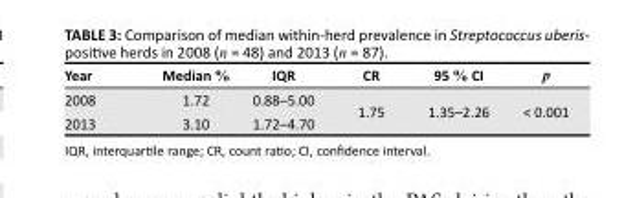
<table><thead><tr><td>Year</td><td>Median %</td><td>IQR</td><td>CR</td><td>95 % CI</td><td>p</td></tr></thead><tbody><tr><td>2008</td><td>1.72</td><td>0.88–5.00</td><td rowspan="2">1.75</td><td rowspan="2">1.35–2.26</td><td rowspan="2">&lt; 0.001</td></tr><tr><td>2013</td><td>3.10</td><td>1.72–4.70</td></tr></tbody></table>